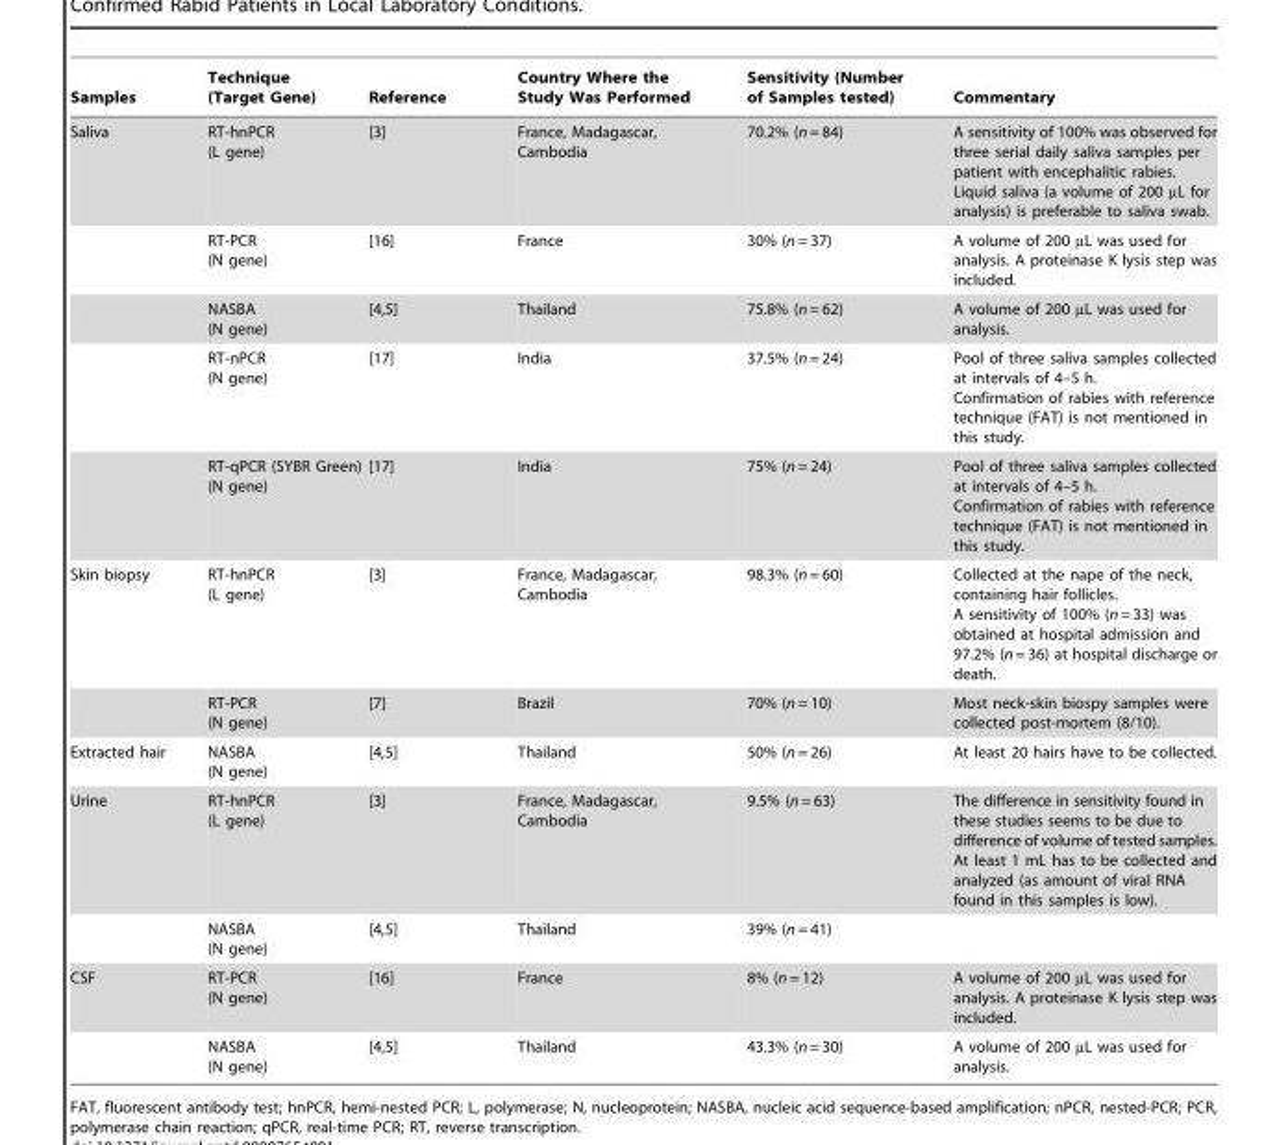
<table><thead><tr><td>Samples</td><td>Technique (Target Gene)</td><td>Reference</td><td>Country Where the Study Was Performed</td><td>Sensitivity (Number of Samples tested)</td><td>Commentary</td></tr></thead><tbody><tr><td rowspan="5">Saliva</td><td>RT-hnPCR (L gene)</td><td>[3]</td><td>France, Madagascar, Cambodia</td><td>70.2% (n = 84)</td><td>A sensitivity of 100% was observed for three serial daily saliva samples per patient with encephalitic rabies. Liquid saliva (a volume of 200 µL for analysis) is preferable to saliva swab.</td></tr><tr><td>RT-PCR (N gene)</td><td>[16]</td><td>France</td><td>30% (n = 37)</td><td>A volume of 200 µL was used for analysis. A proteinase K lysis step was included.</td></tr><tr><td>NASBA (N gene)</td><td>[4,5]</td><td>Thailand</td><td>75.8% (n = 62)</td><td>A volume of 200 µL was used for analysis.</td></tr><tr><td>RT-nPCR (N gene)</td><td>[17]</td><td>India</td><td>37.5% (n = 24)</td><td>Pool of three saliva samples collected at intervals of 4–5 h. Confirmation of rabies with reference technique (FAT) is not mentioned in this study.</td></tr><tr><td>RT-qPCR (SYBR Green) (N gene)</td><td>[17]</td><td>India</td><td>75% (n = 24)</td><td>Pool of three saliva samples collected at intervals of 4–5 h. Confirmation of rabies with reference technique (FAT) is not mentioned in this study.</td></tr><tr><td rowspan="2">Skin biopsy</td><td>RT-hnPCR (L gene)</td><td>[3]</td><td>France, Madagascar, Cambodia</td><td>98.3% (n = 60)</td><td>Collected at the nape of the neck, containing hair follicles. A sensitivity of 100% (n = 33) was obtained at hospital admission and 97.2% (n = 36) at hospital discharge or death.</td></tr><tr><td>RT-PCR (N gene)</td><td>[7]</td><td>Brazil</td><td>70% (n = 10)</td><td>Most neck-skin biospy samples were collected post-mortem (8/10).</td></tr><tr><td>Extracted hair</td><td>NASBA (N gene)</td><td>[4,5]</td><td>Thailand</td><td>50% (n = 26)</td><td>At least 20 hairs have to be collected.</td></tr><tr><td rowspan="2">Urine</td><td>RT-hnPCR (L gene)</td><td>[3]</td><td>France, Madagascar, Cambodia</td><td>9.5% (n = 63)</td><td>The difference in sensitivity found in these studies seems to be due to difference of volume of tested samples. At least 1 mL has to be collected and analyzed (as amount of viral RNA found in this samples is low).</td></tr><tr><td>NASBA (N gene)</td><td>[4,5]</td><td>Thailand</td><td>39% (n = 41)</td><td></td></tr><tr><td rowspan="2">CSF</td><td>RT-PCR (N gene)</td><td>[16]</td><td>France</td><td>8% (n = 12)</td><td>A volume of 200 µL was used for analysis. A proteinase K lysis step was included.</td></tr><tr><td>NASBA (N gene)</td><td>[4,5]</td><td>Thailand</td><td>43.3% (n = 30)</td><td>A volume of 200 µL was used for analysis.</td></tr></tbody></table>